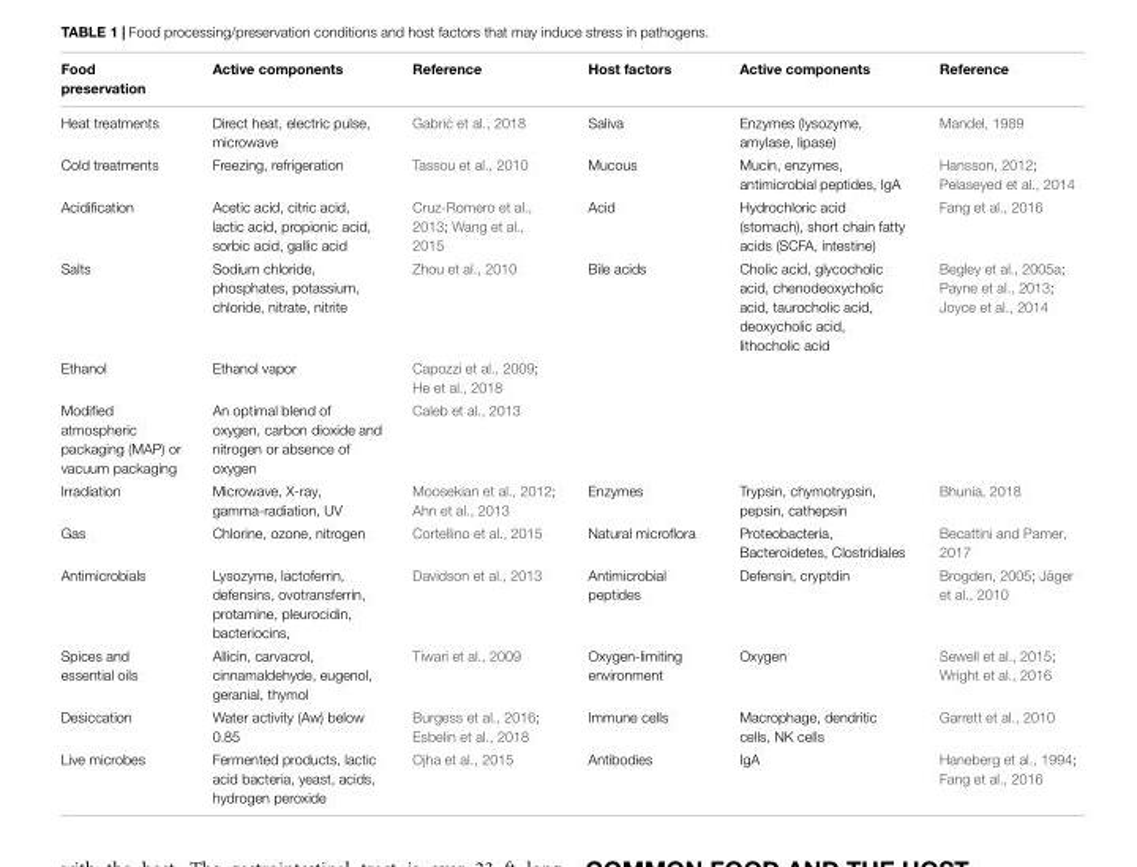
<table><thead><tr><td>Food preservation</td><td>Active components</td><td>Reference</td><td>Host factors</td><td>Active components</td><td>Reference</td></tr></thead><tbody><tr><td>Heat treatments</td><td>Direct heat, electric pulse, microwave</td><td>Gabri ´c et al., 2018</td><td>Saliva</td><td>Enzymes (lysozyme, amylase, lipase)</td><td>Mandel, 1989</td></tr><tr><td>Cold treatments</td><td>Freezing, refrigeration</td><td>Tassou et al., 2010</td><td>Mucous</td><td>Mucin, enzymes, antimicrobial peptides, IgA</td><td>Hansson, 2012; Pelaseyed et al., 2014</td></tr><tr><td>Acidification</td><td>Acetic acid, citric acid, lactic acid, propionic acid, sorbic acid, gallic acid</td><td>Cruz-Romero et al., 2013; Wang et al., 2015</td><td>Acid</td><td>Hydrochloric acid (stomach), short chain fatty acids (SCFA, intestine)</td><td>Fang et al., 2016</td></tr><tr><td>Salts</td><td>Sodium chloride, phosphates, potassium, chloride, nitrate, nitrite</td><td>Zhou et al., 2010</td><td>Bile acids</td><td>Cholic acid, glycocholic acid, chenodeoxycholic acid, taurocholic acid, deoxycholic acid, lithocholic acid</td><td>Begley et al., 2005a; Payne et al., 2013; Joyce et al., 2014</td></tr><tr><td>Ethanol</td><td>Ethanol vapor</td><td>Capozzi et al., 2009; He et al., 2018</td><td></td><td></td><td></td></tr><tr><td>Modified atmospheric packaging (MAP) or vacuum packaging</td><td>An optimal blend of oxygen, carbon dioxide and nitrogen or absence of oxygen</td><td>Caleb et al., 2013</td><td></td><td></td><td></td></tr><tr><td>Irradiation</td><td>Microwave, X-ray, gamma-radiation, UV</td><td>Moosekian et al., 2012; Ahn et al., 2013</td><td>Enzymes</td><td>Trypsin, chymotrypsin, pepsin, cathepsin</td><td>Bhunia, 2018</td></tr><tr><td>Gas</td><td>Chlorine, ozone, nitrogen</td><td>Cortellino et al., 2015</td><td>Natural microflora</td><td>Proteobacteria, Bacteroidetes, Clostridiales</td><td>Becattini and Pamer, 2017</td></tr><tr><td>Antimicrobials</td><td>Lysozyme, lactoferrin, defensins, ovotransferrin, protamine, pleurocidin, bacteriocins,</td><td>Davidson et al., 2013</td><td>Antimicrobial peptides</td><td>Defensin, cryptdin</td><td>Brogden, 2005; Jäger et al., 2010</td></tr><tr><td>Spices and essential oils</td><td>Allicin, carvacrol, cinnamaldehyde, eugenol, geranial, thymol</td><td>Tiwari et al., 2009</td><td>Oxygen-limiting environment</td><td>Oxygen</td><td>Sewell et al., 2015; Wright et al., 2016</td></tr><tr><td>Desiccation</td><td>Water activity (Aw) below 0.85</td><td>Burgess et al., 2016; Esbelin et al., 2018</td><td>Immune cells</td><td>Macrophage, dendritic cells, NK cells</td><td>Garrett et al., 2010</td></tr><tr><td>Live microbes</td><td>Fermented products, lactic acid bacteria, yeast, acids, hydrogen peroxide</td><td>Ojha et al., 2015</td><td>Antibodies</td><td>IgA</td><td>Haneberg et al., 1994; Fang et al., 2016</td></tr></tbody></table>